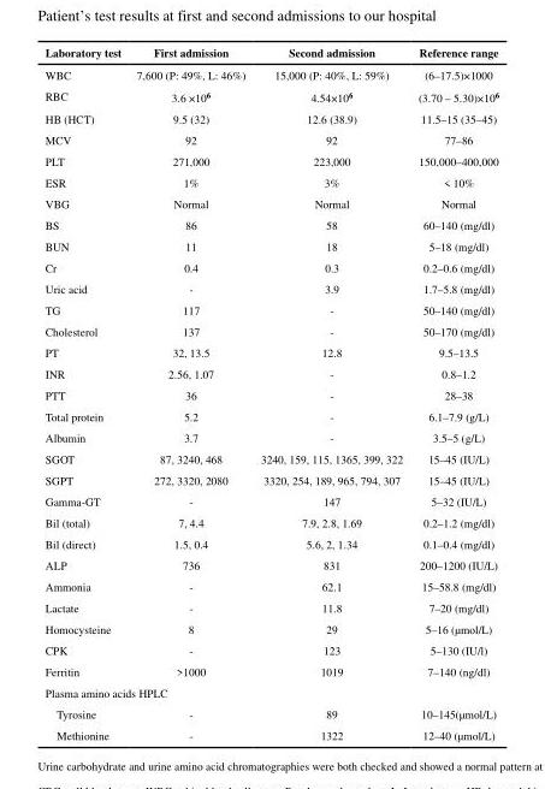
<table><thead><tr><td>Laboratory test</td><td>First admission</td><td>Second admission</td><td>Reference range</td></tr></thead><tbody><tr><td>WBC</td><td>7,600 (P: 49%, L: 46%)</td><td>15,000 (P: 40%, L: 59%)</td><td>(6–17.5)×1000</td></tr><tr><td>RBC</td><td>3.6 ×10<sup>6</sup></td><td>4.54×10<sup>6</sup></td><td>(3.70 – 5.30)×10<sup>6</sup></td></tr><tr><td>HB (HCT)</td><td>9.5 (32)</td><td>12.6 (38.9)</td><td>11.5–15 (35–45)</td></tr><tr><td>MCV</td><td>92</td><td>92</td><td>77–86</td></tr><tr><td>PLT</td><td>271,000</td><td>223,000</td><td>150,000–400,000</td></tr><tr><td>ESR</td><td>1%</td><td>3%</td><td>&lt; 10%</td></tr><tr><td>VBG</td><td>Normal</td><td>Normal</td><td>Normal</td></tr><tr><td>BS</td><td>86</td><td>58</td><td>60–140 (mg/dl)</td></tr><tr><td>BUN</td><td>11</td><td>18</td><td>5–18 (mg/dl)</td></tr><tr><td>Cr</td><td>0.4</td><td>0.3</td><td>0.2–0.6 (mg/dl)</td></tr><tr><td>Uric acid</td><td>-</td><td>3.9</td><td>1.7–5.8 (mg/dl)</td></tr><tr><td>TG</td><td>117</td><td>-</td><td>50–140 (mg/dl)</td></tr><tr><td>Cholesterol</td><td>137</td><td>-</td><td>50–170 (mg/dl)</td></tr><tr><td>PT</td><td>32, 13.5</td><td>12.8</td><td>9.5–13.5</td></tr><tr><td>INR</td><td>2.56, 1.07</td><td>-</td><td>0.8–1.2</td></tr><tr><td>PTT</td><td>36</td><td>-</td><td>28–38</td></tr><tr><td>Total protein</td><td>5.2</td><td>-</td><td>6.1–7.9 (g/L)</td></tr><tr><td>Albumin</td><td>3.7</td><td>-</td><td>3.5–5 (g/L)</td></tr><tr><td>SGOT</td><td>87, 3240, 468</td><td>3240, 159, 115, 1365, 399, 322</td><td>15–45 (IU/L)</td></tr><tr><td>SGPT</td><td>272, 3320, 2080</td><td>3320, 254, 189, 965, 794, 307</td><td>15–45 (IU/L)</td></tr><tr><td>Gamma-GT</td><td>-</td><td>147</td><td>5–32 (IU/L)</td></tr><tr><td>Bil (total)</td><td>7, 4.4</td><td>7.9, 2.8, 1.69</td><td>0.2–1.2 (mg/dl)</td></tr><tr><td>Bil (direct)</td><td>1.5, 0.4</td><td>5.6, 2, 1.34</td><td>0.1–0.4 (mg/dl)</td></tr><tr><td>ALP</td><td>736</td><td>831</td><td>200–1200 (IU/L)</td></tr><tr><td>Ammonia</td><td>-</td><td>62.1</td><td>15–58.8 (mg/dl)</td></tr><tr><td>Lactate</td><td>-</td><td>11.8</td><td>7–20 (mg/dl)</td></tr><tr><td>Homocysteine</td><td>8</td><td>29</td><td>5–16 (μmol/L)</td></tr><tr><td>CPK</td><td>-</td><td>123</td><td>5–130 (IU/l)</td></tr><tr><td>Ferritin</td><td>&gt;1000</td><td>1019</td><td>7–140 (ng/dl)</td></tr><tr><td colspan="4">Plasma amino acids HPLC</td></tr><tr><td>Tyrosine</td><td>-</td><td>89</td><td>10–145(μmol/L)</td></tr><tr><td>Methionine</td><td>-</td><td>1322</td><td>12–40 (μmol/L)</td></tr></tbody></table>